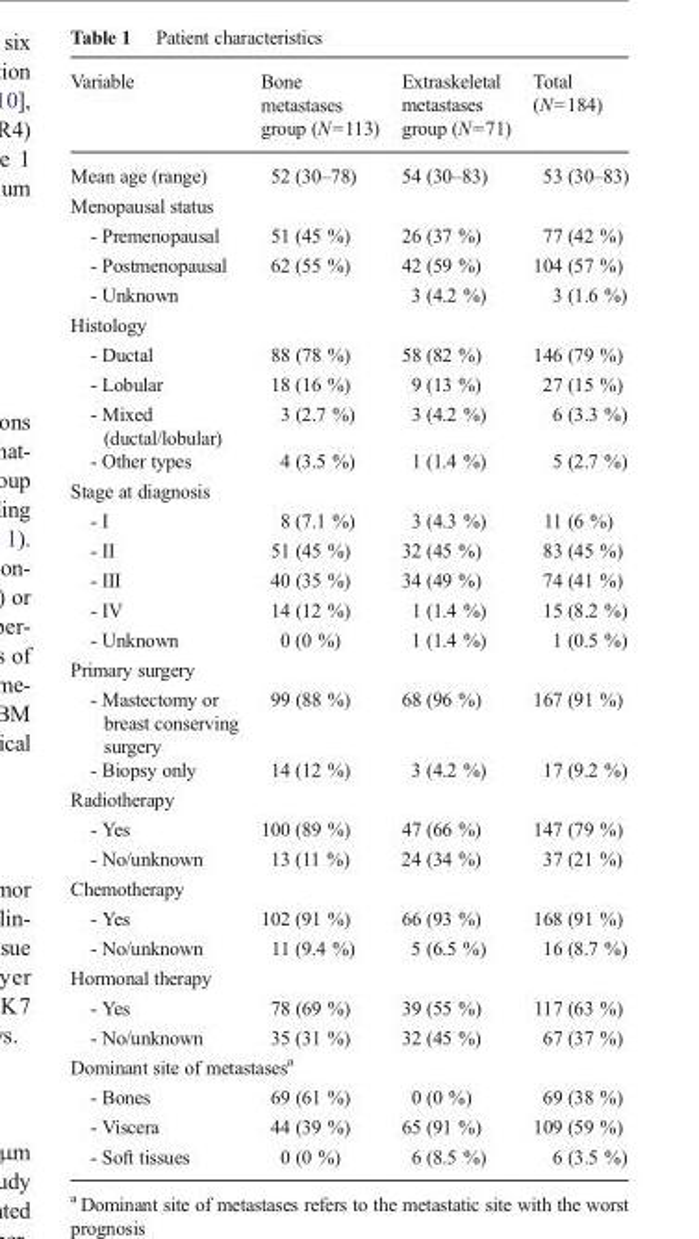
<table><thead><tr><td>Variable</td><td>Bone metastases group (N=113)</td><td>Extraskeletal metastases group (N=71)</td><td>Total (N=184)</td></tr></thead><tbody><tr><td>Mean age (range)</td><td>52 (30–78)</td><td>54 (30–83)</td><td>53 (30–83)</td></tr><tr><td colspan="4">Menopausal status</td></tr><tr><td>- Premenopausal</td><td>51 (45 %)</td><td>26 (37 %)</td><td>77 (42 %)</td></tr><tr><td>- Postmenopausal</td><td>62 (55 %)</td><td>42 (59 %)</td><td>104 (57 %)</td></tr><tr><td>- Unknown</td><td></td><td>3 (4.2 %)</td><td>3 (1.6 %)</td></tr><tr><td colspan="4">Histology</td></tr><tr><td>- Ductal</td><td>88 (78 %)</td><td>58 (82 %)</td><td>146 (79 %)</td></tr><tr><td>- Lobular</td><td>18 (16 %)</td><td>9 (13 %)</td><td>27 (15 %)</td></tr><tr><td>- Mixed (ductal/lobular)</td><td>3 (2.7 %)</td><td>3 (4.2 %)</td><td>6 (3.3 %)</td></tr><tr><td>- Other types</td><td>4 (3.5 %)</td><td>1 (1.4 %)</td><td>5 (2.7 %)</td></tr><tr><td colspan="4">Stage at diagnosis</td></tr><tr><td>- I</td><td>8 (7.1 %)</td><td>3 (4.3 %)</td><td>11 (6 %)</td></tr><tr><td>- II</td><td>51 (45 %)</td><td>32 (45 %)</td><td>83 (45 %)</td></tr><tr><td>- III</td><td>40 (35 %)</td><td>34 (49 %)</td><td>74 (41 %)</td></tr><tr><td>- IV</td><td>14 (12 %)</td><td>1 (1.4 %)</td><td>15 (8.2 %)</td></tr><tr><td>- Unknown</td><td>0 (0 %)</td><td>1 (1.4 %)</td><td>1 (0.5 %)</td></tr><tr><td colspan="4">Primary surgery</td></tr><tr><td>- Mastectomy or breast conserving surgery</td><td>99 (88 %)</td><td>68 (96 %)</td><td>167 (91 %)</td></tr><tr><td>- Biopsy only</td><td>14 (12 %)</td><td>3 (4.2 %)</td><td>17 (9.2 %)</td></tr><tr><td colspan="4">Radiotherapy</td></tr><tr><td>- Yes</td><td>100 (89 %)</td><td>47 (66 %)</td><td>147 (79 %)</td></tr><tr><td>- No/unknown</td><td>13 (11 %)</td><td>24 (34 %)</td><td>37 (21 %)</td></tr><tr><td colspan="4">Chemotherapy</td></tr><tr><td>- Yes</td><td>102 (91 %)</td><td>66 (93 %)</td><td>168 (91 %)</td></tr><tr><td>- No/unknown</td><td>11 (9.4 %)</td><td>5 (6.5 %)</td><td>16 (8.7 %)</td></tr><tr><td colspan="4">Hormonal therapy</td></tr><tr><td>- Yes</td><td>78 (69 %)</td><td>39 (55 %)</td><td>117 (63 %)</td></tr><tr><td>- No/unknown</td><td>35 (31 %)</td><td>32 (45 %)</td><td>67 (37 %)</td></tr><tr><td colspan="4">Dominant site of metastases<sup>a</sup></td></tr><tr><td>- Bones</td><td>69 (61 %)</td><td>0 (0 %)</td><td>69 (38 %)</td></tr><tr><td>- Viscera</td><td>44 (39 %)</td><td>65 (91 %)</td><td>109 (59 %)</td></tr><tr><td>- Soft tissues</td><td>0 (0 %)</td><td>6 (8.5 %)</td><td>6 (3.5 %)</td></tr></tbody></table>